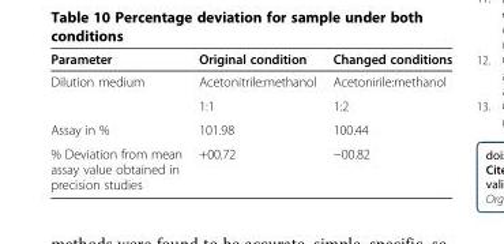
<table><thead><tr><td>Parameter</td><td>Original condition</td><td>Changed conditions</td></tr></thead><tbody><tr><td rowspan="2">Dilution medium</td><td>Acetonitrile:methanol</td><td>Acetonirile:methanol</td></tr><tr><td>1:1</td><td>1:2</td></tr><tr><td>Assay in %</td><td>101.98</td><td>100.44</td></tr><tr><td>% Deviation from mean assay value obtained in precision studies</td><td>+00.72</td><td>−00.82</td></tr></tbody></table>